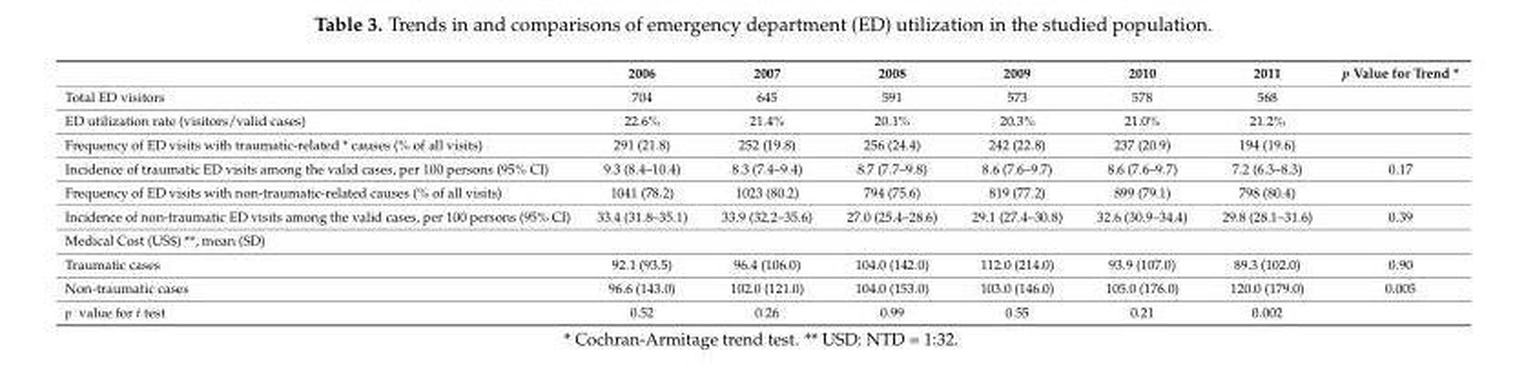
<table><thead><tr><td></td><td>2006</td><td>2007</td><td>2008</td><td>2009</td><td>2010</td><td>2011</td><td>p Value for Trend *</td></tr></thead><tbody><tr><td>Total ED visitors</td><td>704</td><td>645</td><td>591</td><td>573</td><td>578</td><td>568</td><td></td></tr><tr><td>ED utilization rate (visitors/valid cases)</td><td>22.6%</td><td>21.4%</td><td>20.1%</td><td>20.3%</td><td>21.0%</td><td>21.2%</td><td></td></tr><tr><td>Frequency of ED visits with traumatic-related * causes (% of all visits)</td><td>291 (21.8)</td><td>252 (19.8)</td><td>256 (24.4)</td><td>242 (22.8)</td><td>237 (20.9)</td><td>194 (19.6)</td><td></td></tr><tr><td>Incidence of traumatic ED visits among the valid cases, per 100 persons (95% CI)</td><td>9.3 (8.4–10.4)</td><td>8.3 (7.4–9.4)</td><td>8.7 (7.7–9.8)</td><td>8.6 (7.6–9.7)</td><td>8.6 (7.6–9.7)</td><td>7.2 (6.3–8.3)</td><td>0.17</td></tr><tr><td>Frequency of ED visits with non-traumatic-related causes (% of all visits)</td><td>1041 (78.2)</td><td>1023 (80.2)</td><td>794 (75.6)</td><td>819 (77.2)</td><td>899 (79.1)</td><td>798 (80.4)</td><td></td></tr><tr><td>Incidence of non-traumatic ED visits among the valid cases, per 100 persons (95% CI)</td><td>33.4 (31.8–35.1)</td><td>33.9 (32.2–35.6)</td><td>27.0 (25.4–28.6)</td><td>29.1 (27.4–30.8)</td><td>32.6 (30.9–34.4)</td><td>29.8 (28.1–31.6)</td><td>0.39</td></tr><tr><td colspan="8">Medical Cost (US$) **, mean (SD)</td></tr><tr><td>Traumatic cases</td><td>92.1 (93.5)</td><td>96.4 (106.0)</td><td>104.0 (142.0)</td><td>112.0 (214.0)</td><td>93.9 (107.0)</td><td>89.3 (102.0)</td><td>0.90</td></tr><tr><td>Non-traumatic cases</td><td>96.6 (143.0)</td><td>102.0 (121.0)</td><td>104.0 (153.0)</td><td>103.0 (146.0)</td><td>105.0 (176.0)</td><td>120.0 (179.0)</td><td>0.005</td></tr><tr><td>p value for t test</td><td>0.52</td><td>0.26</td><td>0.99</td><td>0.55</td><td>0.21</td><td>0.002</td><td></td></tr></tbody></table>